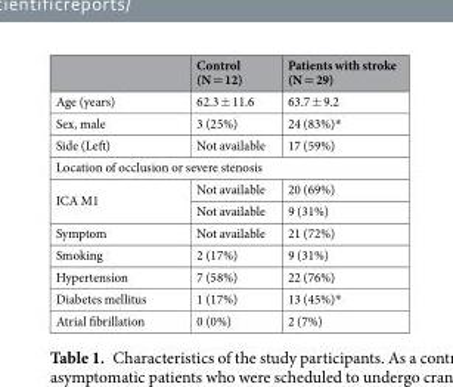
<table><thead><tr><td></td><td>Control (N = 12)</td><td>Patients with stroke (N = 29)</td></tr></thead><tbody><tr><td>Age (years)</td><td>62.3 ± 11.6</td><td>63.7 ± 9.2</td></tr><tr><td>Sex, male</td><td>3 (25%)</td><td>24 (83%)*</td></tr><tr><td>Side (Left)</td><td>Not available</td><td>17 (59%)</td></tr><tr><td colspan="3">Location of occlusion or severe stenosis</td></tr><tr><td rowspan="2">ICA M1</td><td>Not available</td><td>20 (69%)</td></tr><tr><td>Not available</td><td>9 (31%)</td></tr><tr><td>Symptom</td><td>Not available</td><td>21 (72%)</td></tr><tr><td>Smoking</td><td>2 (17%)</td><td>9 (31%)</td></tr><tr><td>Hypertension</td><td>7 (58%)</td><td>22 (76%)</td></tr><tr><td>Diabetes mellitus</td><td>1 (17%)</td><td>13 (45%)*</td></tr><tr><td>Atrial fibrillation</td><td>0 (0%)</td><td>2 (7%)</td></tr></tbody></table>